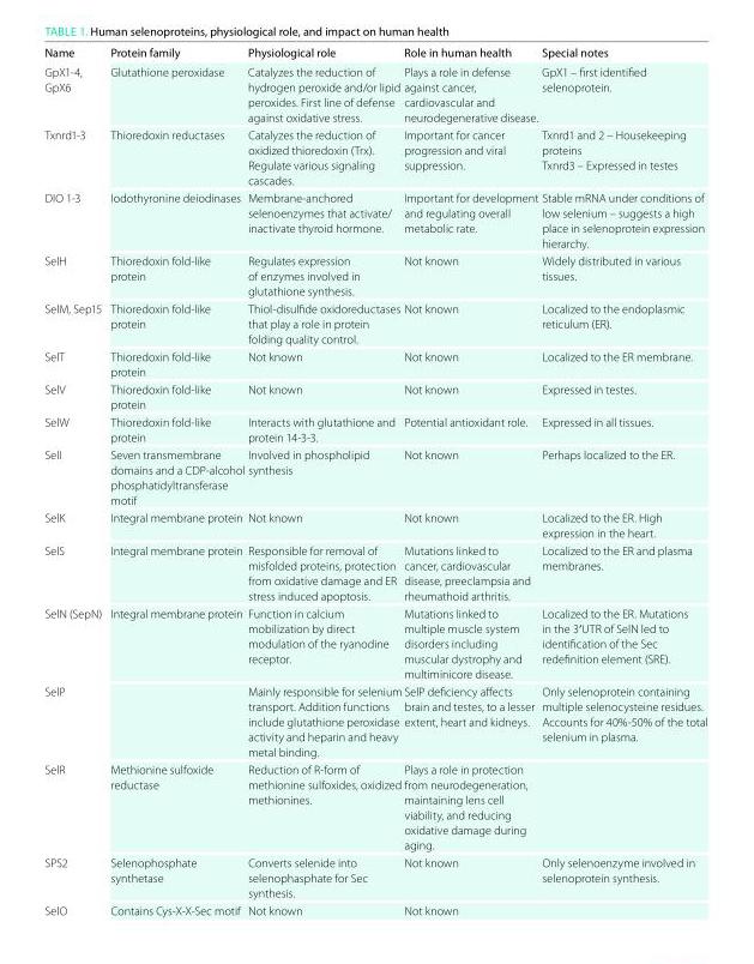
<table><thead><tr><td>name</td><td>Protein family</td><td>Physiological role</td><td>Role in human health</td><td>Special notes</td></tr></thead><tbody><tr><td>GpX1-4, GpX6</td><td>Glutathione peroxidase</td><td>Catalyzes the reduction of hydrogen peroxide and/or lipid peroxides. First line of defense against oxidative stress.</td><td>Plays a role in defense against cancer, cardiovascular and neurodegenerative disease.</td><td>GpX1 – first identified selenoprotein.</td></tr><tr><td>Txnrd1-3</td><td>Thioredoxin reductases</td><td>Catalyzes the reduction of oxidized thioredoxin (Trx). Regulate various signaling cascades.</td><td>Important for cancer progression and viral suppression.</td><td>Txnrd1 and 2 – Housekeeping proteins Txnrd3 – Expressed in testes</td></tr><tr><td>DIO 1-3</td><td>Iodothyronine deiodinases</td><td>Membrane-anchored selenoenzymes that activate/ inactivate thyroid hormone.</td><td>Important for development and regulating overall metabolic rate.</td><td>Stable mRNA under conditions of low selenium – suggests a high place in selenoprotein expression hierarchy.</td></tr><tr><td>SelH</td><td>Thioredoxin fold-like protein</td><td>Regulates expression of enzymes involved in glutathione synthesis.</td><td>Not known</td><td>Widely distributed in various tissues.</td></tr><tr><td>SelM, Sep15</td><td>Thioredoxin fold-like protein</td><td>Thiol-disulfide oxidoreductases that play a role in protein folding quality control.</td><td>Not known</td><td>Localized to the endoplasmic reticulum (ER).</td></tr><tr><td>SelT</td><td>Thioredoxin fold-like protein</td><td>Not known</td><td>Not known</td><td>Localized to the ER membrane.</td></tr><tr><td>SelV</td><td>Thioredoxin fold-like protein</td><td>Not known</td><td>Not known</td><td>Expressed in testes.</td></tr><tr><td>SelW</td><td>Thioredoxin fold-like protein</td><td>Interacts with glutathione and protein 14-3-3.</td><td>Potential antioxidant role.</td><td>Expressed in all tissues.</td></tr><tr><td>SelI</td><td>Seven transmembrane domains and a CDP-alcohol phosphatidyltransferase motif</td><td>Involved in phospholipid synthesis</td><td>Not known</td><td>Perhaps localized to the ER.</td></tr><tr><td>SelK</td><td>Integral membrane protein</td><td>Not known</td><td>Not known</td><td>Localized to the ER. High expression in the heart.</td></tr><tr><td>SelS</td><td>Integral membrane protein</td><td>Responsible for removal of misfolded proteins, protection from oxidative damage and ER stress induced apoptosis.</td><td>Mutations linked to cancer, cardiovascular disease, preeclampsia and rheumathoid arthritis.</td><td>Localized to the ER and plasma membranes.</td></tr><tr><td>SelN (SepN)</td><td>Integral membrane protein</td><td>Function in calcium mobilization by direct modulation of the ryanodine receptor.</td><td>Mutations linked to multiple muscle system disorders including muscular dystrophy and multiminicore disease.</td><td>Localized to the ER. Mutations in the 3′UTR of SelN led to identification of the Sec redefinition element (SRE).</td></tr><tr><td>SelP</td><td></td><td>Mainly responsible for selenium transport. Addition functions include glutathione peroxidase activity and heparin and heavy metal binding.</td><td>SelP deficiency affects brain and testes, to a lesser extent, heart and kidneys.</td><td>Only selenoprotein containing multiple selenocysteine residues. Accounts for 40%-50% of the total selenium in plasma.</td></tr><tr><td>SelR</td><td>Methionine sulfoxide reductase</td><td>Reduction of R-form of methionine sulfoxides, oxidized methionines.</td><td>Plays a role in protection from neurodegeneration, maintaining lens cell viability, and reducing oxidative damage during aging.</td><td></td></tr><tr><td>SPS2</td><td>Selenophosphate synthetase</td><td>Converts selenide into selenophasphate for Sec synthesis.</td><td>Not known</td><td>Only selenoenzyme involved in selenoprotein synthesis.</td></tr><tr><td>SelO</td><td>Contains Cys-X-X-Sec motif</td><td>Not known</td><td>Not known</td><td></td></tr></tbody></table>